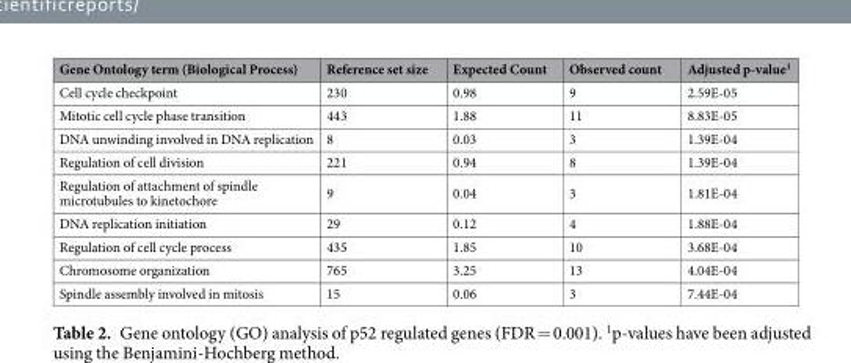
<table><thead><tr><td>Gene Ontology term (Biological Process)</td><td>Reference set size</td><td>Expected Count</td><td>Observed count</td><td>Adjusted p-value<sup>1</sup></td></tr></thead><tbody><tr><td>Cell cycle checkpoint</td><td>230</td><td>0.98</td><td>9</td><td>2.59E-05</td></tr><tr><td>Mitotic cell cycle phase transition</td><td>443</td><td>1.88</td><td>11</td><td>8.83E-05</td></tr><tr><td>DNA unwinding involved in DNA replication</td><td>8</td><td>0.03</td><td>3</td><td>1.39E-04</td></tr><tr><td>Regulation of cell division</td><td>221</td><td>0.94</td><td>8</td><td>1.39E-04</td></tr><tr><td>Regulation of attachment of spindle microtubules to kinetochore</td><td>9</td><td>0.04</td><td>3</td><td>1.81E-04</td></tr><tr><td>DNA replication initiation</td><td>29</td><td>0.12</td><td>4</td><td>1.88E-04</td></tr><tr><td>Regulation of cell cycle process</td><td>435</td><td>1.85</td><td>10</td><td>3.68E-04</td></tr><tr><td>Chromosome organization</td><td>765</td><td>3.25</td><td>13</td><td>4.04E-04</td></tr><tr><td>Spindle assembly involved in mitosis</td><td>15</td><td>0.06</td><td>3</td><td>7.44E-04</td></tr></tbody></table>